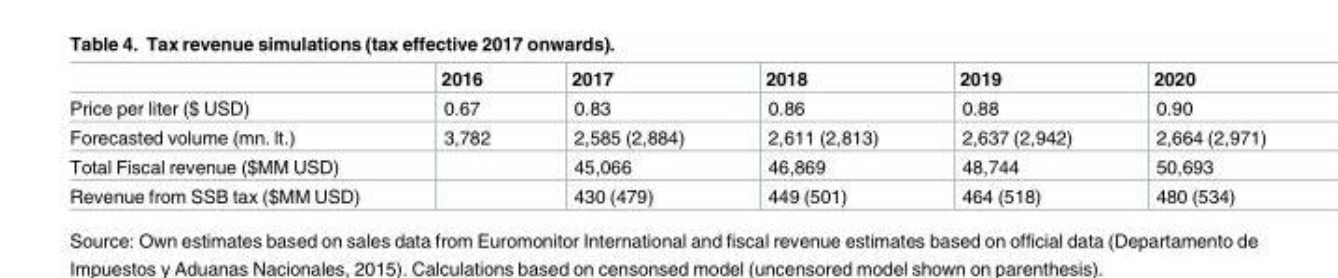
<table><thead><tr><td></td><td>2016</td><td>2017</td><td>2018</td><td>2019</td><td>2020</td></tr></thead><tbody><tr><td>Price per liter ($ USD)</td><td>0.67</td><td>0.83</td><td>0.86</td><td>0.88</td><td>0.90</td></tr><tr><td>Forecasted volume (mn. lt.)</td><td>3,782</td><td>2,585 (2,884)</td><td>2,611 (2,813)</td><td>2,637 (2,942)</td><td>2,664 (2,971)</td></tr><tr><td>Total Fiscal revenue ($MM USD)</td><td></td><td>45,066</td><td>46,869</td><td>48,744</td><td>50,693</td></tr><tr><td>Revenue from SSB tax ($MM USD)</td><td></td><td>430 (479)</td><td>449 (501)</td><td>464 (518)</td><td>480 (534)</td></tr></tbody></table>